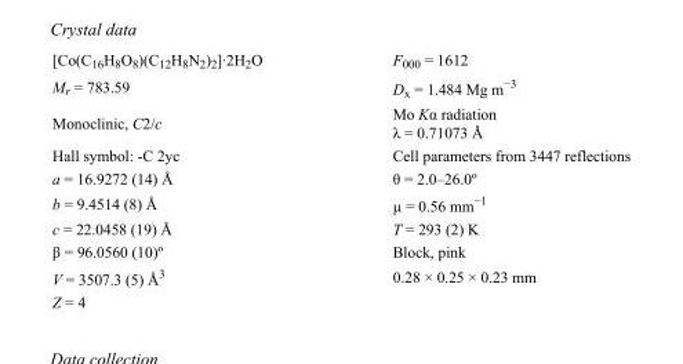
<table><tbody><tr><td>[Co(C<sub>16</sub>H<sub>8</sub>O<sub>8</sub>)(C<sub>12</sub>H<sub>8</sub>N<sub>2</sub>)<sub>2</sub>]·2H<sub>2</sub>O</td><td>F<sub>000</sub> = 1612</td></tr><tr><td>M<sub>r</sub> = 783.59</td><td>D<sub>x</sub> = 1.484 Mg m<sup>−3</sup></td></tr><tr><td>Monoclinic, C2/c</td><td>Mo Kα radiation λ = 0.71073 Å</td></tr><tr><td>Hall symbol: -C 2yc</td><td>Cell parameters from 3447 reflections</td></tr><tr><td>a = 16.9272 (14) Å</td><td>θ = 2.0–26.0º</td></tr><tr><td>b = 9.4514 (8) Å</td><td>µ = 0.56 mm<sup>−1</sup></td></tr><tr><td>c = 22.0458 (19) Å</td><td>T = 293 (2) K</td></tr><tr><td>β = 96.0560 (10)º</td><td>Block, pink</td></tr><tr><td>V = 3507.3 (5) Å<sup>3</sup></td><td>0.28 × 0.25 × 0.23 mm</td></tr><tr><td>Z = 4</td><td></td></tr></tbody></table>